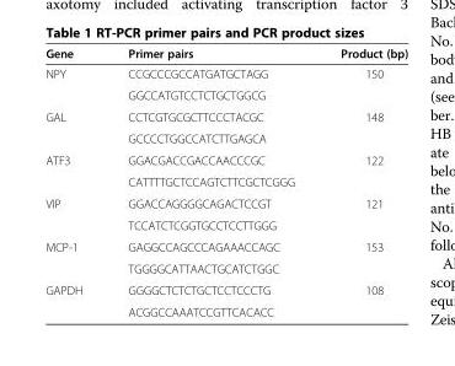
<table><thead><tr><td>Gene</td><td>Primer pairs</td><td>Product (bp)</td></tr></thead><tbody><tr><td rowspan="2">NPY</td><td>CCGCCCGCCATGATGCTAGG</td><td>150</td></tr><tr><td>GGCCATGTCCTCTGCTGGCG</td><td></td></tr><tr><td rowspan="2">GAL</td><td>CCTCGTGCGCTTCCCTACGC</td><td>148</td></tr><tr><td>GCCCCTGGCCATCTTGAGCA</td><td></td></tr><tr><td rowspan="2">ATF3</td><td>GGACGACCGACCAACCCGC</td><td>122</td></tr><tr><td>CATTTTGCTCCAGTCTTCGCTCGGG</td><td></td></tr><tr><td rowspan="2">VIP</td><td>GGACCAGGGGCAGACTCCGT</td><td>121</td></tr><tr><td>TCCATCTCGGTGCCTCCTTGGG</td><td></td></tr><tr><td rowspan="2">MCP-1</td><td>GAGGCCAGCCCAGAAACCAGC</td><td>153</td></tr><tr><td>TGGGGCATTAACTGCATCTGGC</td><td></td></tr><tr><td rowspan="2">GAPDH</td><td>GGGGCTCTCTGCTCCTCCCTG</td><td>108</td></tr><tr><td>ACGGCCAAATCCGTTCACACC</td><td></td></tr></tbody></table>